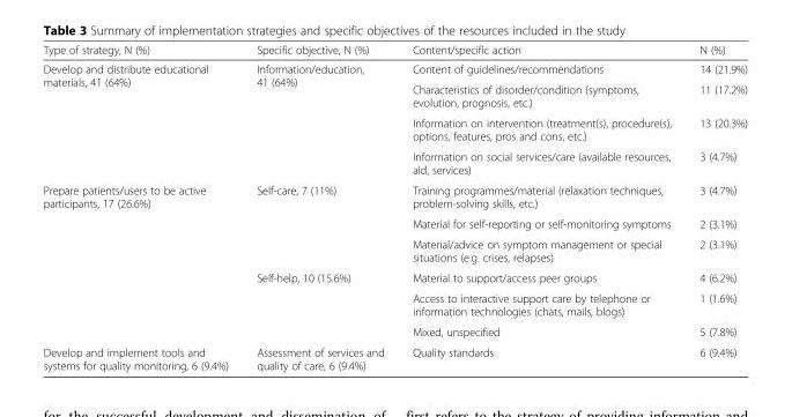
<table><thead><tr><td>Type of strategy, N (%)</td><td>Specific objective, N (%)</td><td>Content/specific action</td><td>N (%)</td></tr></thead><tbody><tr><td rowspan="4">Develop and distribute educational materials, 41 (64%)</td><td rowspan="4">Information/education, 41 (64%)</td><td>Content of guidelines/recommendations</td><td>14 (21.9%)</td></tr><tr><td>Characteristics of disorder/condition (symptoms, evolution, prognosis, etc.)</td><td>11 (17.2%)</td></tr><tr><td>Information on intervention (treatment(s), procedure(s), options, features, pros and cons, etc.)</td><td>13 (20.3%)</td></tr><tr><td>Information on social services/care (available resources, aid, services)</td><td>3 (4.7%)</td></tr><tr><td rowspan="6">Prepare patients/users to be active participants, 17 (26.6%)</td><td rowspan="3">Self-care, 7 (11%)</td><td>Training programmes/material (relaxation techniques, problem-solving skills, etc.)</td><td>3 (4.7%)</td></tr><tr><td>Material for self-reporting or self-monitoring symptoms</td><td>2 (3.1%)</td></tr><tr><td>Material/advice on symptom management or special situations (e.g. crises, relapses)</td><td>2 (3.1%)</td></tr><tr><td rowspan="3">Self-help, 10 (15.6%)</td><td>Material to support/access peer groups</td><td>4 (6.2%)</td></tr><tr><td>Access to interactive support care by telephone or information technologies (chats, mails, blogs)</td><td>1 (1.6%)</td></tr><tr><td>Mixed, unspecified</td><td>5 (7.8%)</td></tr><tr><td>Develop and implement tools and systems for quality monitoring, 6 (9.4%)</td><td>Assessment of services and quality of care, 6 (9.4%)</td><td>Quality standards</td><td>6 (9.4%)</td></tr></tbody></table>